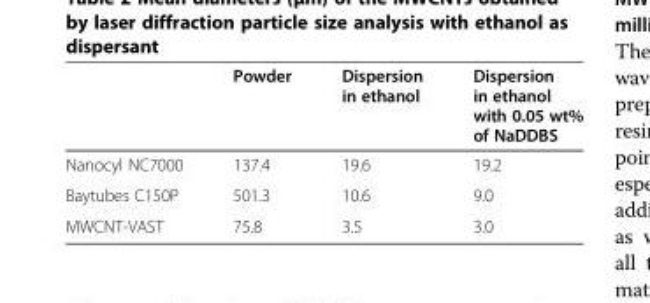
<table><thead><tr><td></td><td>Powder</td><td>Dispersion in ethanol</td><td>Dispersion in ethanol with 0.05 wt% of NaDDBS</td></tr></thead><tbody><tr><td>Nanocyl NC7000</td><td>137.4</td><td>19.6</td><td>19.2</td></tr><tr><td>Baytubes C150P</td><td>501.3</td><td>10.6</td><td>9.0</td></tr><tr><td>MWCNT-VAST</td><td>75.8</td><td>3.5</td><td>3.0</td></tr></tbody></table>